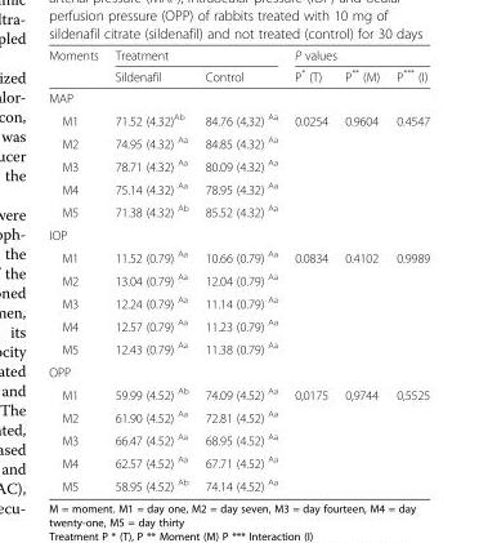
<table><thead><tr><td rowspan="2">Moments</td><td colspan="2">Treatment</td><td colspan="3">P values</td></tr><tr><td>Sildenafil</td><td>Control</td><td>P* (T)</td><td>P** (M)</td><td>P*** (I)</td></tr></thead><tbody><tr><td colspan="6">MAP</td></tr><tr><td>M1</td><td>71.52 (4.32)<sup>Ab</sup></td><td>84.76 (4,32) <sup>Aa</sup></td><td rowspan="5">0.0254</td><td rowspan="5">0.9604</td><td rowspan="5">0.4547</td></tr><tr><td>M2</td><td>74.95 (4.32) <sup>Aa</sup></td><td>84.85 (4.32) <sup>Aa</sup></td></tr><tr><td>M3</td><td>78.71 (4.32) <sup>Aa</sup></td><td>80.09 (4.32) <sup>Aa</sup></td></tr><tr><td>M4</td><td>75.14 (4.32) <sup>Aa</sup></td><td>78.95 (4.32) <sup>Aa</sup></td></tr><tr><td>M5</td><td>71.38 (4.32) <sup>Ab</sup></td><td>85.52 (4.32) <sup>Aa</sup></td></tr><tr><td colspan="6">IOP</td></tr><tr><td>M1</td><td>11.52 (0.79) <sup>Aa</sup></td><td>10.66 (0.79) <sup>Aa</sup></td><td rowspan="5">0.0834</td><td rowspan="5">0.4102</td><td rowspan="5">0.9989</td></tr><tr><td>M2</td><td>13.04 (0.79) <sup>Aa</sup></td><td>12.04 (0.79) <sup>Aa</sup></td></tr><tr><td>M3</td><td>12.24 (0.79) <sup>Aa</sup></td><td>11.14 (0.79) <sup>Aa</sup></td></tr><tr><td>M4</td><td>12.57 (0.79) <sup>Aa</sup></td><td>11.23 (0.79) <sup>Aa</sup></td></tr><tr><td>M5</td><td>12.43 (0.79) <sup>Aa</sup></td><td>11.38 (0.79) <sup>Aa</sup></td></tr><tr><td colspan="6">OPP</td></tr><tr><td>M1</td><td>59.99 (4.52) <sup>Ab</sup></td><td>74.09 (4.52) <sup>Aa</sup></td><td rowspan="5">0,0175</td><td rowspan="5">0,9744</td><td rowspan="5">0,5525</td></tr><tr><td>M2</td><td>61.90 (4.52) <sup>Aa</sup></td><td>72.81 (4.52) <sup>Aa</sup></td></tr><tr><td>M3</td><td>66.47 (4.52) <sup>Aa</sup></td><td>68.95 (4.52) <sup>Aa</sup></td></tr><tr><td>M4</td><td>62.57 (4.52) <sup>Aa</sup></td><td>67.71 (4.52) <sup>Aa</sup></td></tr><tr><td>M5</td><td>58.95 (4.52) <sup>Ab</sup></td><td>74.14 (4.52) <sup>Aa</sup></td></tr></tbody></table>